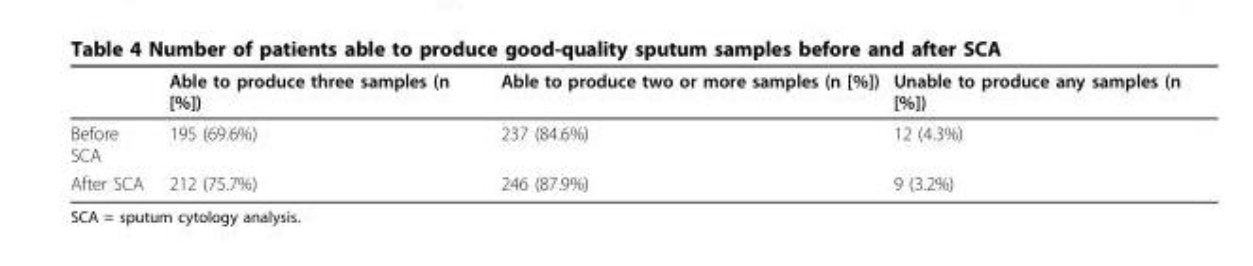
<table><thead><tr><td></td><td>Able to produce three samples (n [%])</td><td>Able to produce two or more samples (n [%])</td><td>Unable to produce any samples (n [%])</td></tr></thead><tbody><tr><td>Before SCA</td><td>195 (69.6%)</td><td>237 (84.6%)</td><td>12 (4.3%)</td></tr><tr><td>After SCA</td><td>212 (75.7%)</td><td>246 (87.9%)</td><td>9 (3.2%)</td></tr></tbody></table>